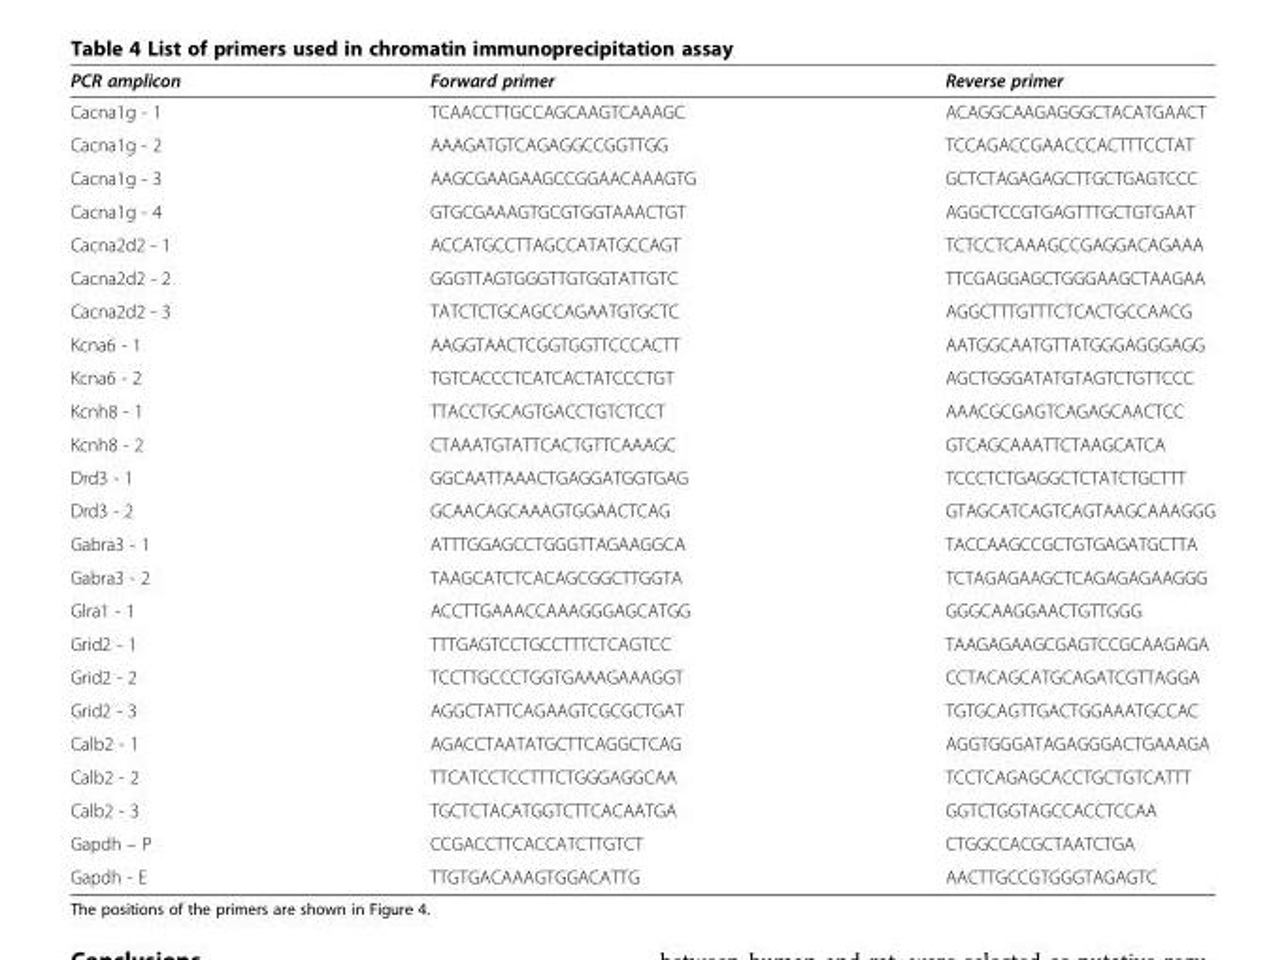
<table><thead><tr><td>PCR amplicon</td><td>Forward primer</td><td>Reverse primer</td></tr></thead><tbody><tr><td>Cacna1g - 1</td><td>TCAACCTTGCCAGCAAGTCAAAGC</td><td>ACAGGCAAGAGGGCTACATGAACT</td></tr><tr><td>Cacna1g - 2</td><td>AAAGATGTCAGAGGCCGGTTGG</td><td>TCCAGACCGAACCCACTTTCCTAT</td></tr><tr><td>Cacna1g - 3</td><td>AAGCGAAGAAGCCGGAACAAAGTG</td><td>GCTCTAGAGAGCTTGCTGAGTCCC</td></tr><tr><td>Cacna1g - 4</td><td>GTGCGAAAGTGCGTGGTAAACTGT</td><td>AGGCTCCGTGAGTTTGCTGTGAAT</td></tr><tr><td>Cacna2d2 - 1</td><td>ACCATGCCTTAGCCATATGCCAGT</td><td>TCTCCTCAAAGCCGAGGACAGAAA</td></tr><tr><td>Cacna2d2 - 2</td><td>GGGTTAGTGGGTTGTGGTATTGTC</td><td>TTCGAGGAGCTGGGAAGCTAAGAA</td></tr><tr><td>Cacna2d2 - 3</td><td>TATCTCTGCAGCCAGAATGTGCTC</td><td>AGGCTTTGTTTCTCACTGCCAACG</td></tr><tr><td>Kcna6 - 1</td><td>AAGGTAACTCGGTGGTTCCCACTT</td><td>AATGGCAATGTTATGGGAGGGAGG</td></tr><tr><td>Kcna6 - 2</td><td>TGTCACCCTCATCACTATCCCTGT</td><td>AGCTGGGATATGTAGTCTGTTCCC</td></tr><tr><td>Kcnh8 - 1</td><td>TTACCTGCAGTGACCTGTCTCCT</td><td>AAACGCGAGTCAGAGCAACTCC</td></tr><tr><td>Kcnh8 - 2</td><td>CTAAATGTATTCACTGTTCAAAGC</td><td>GTCAGCAAATTCTAAGCATCA</td></tr><tr><td>Drd3 - 1</td><td>GGCAATTAAACTGAGGATGGTGAG</td><td>TCCCTCTGAGGCTCTATCTGCTTT</td></tr><tr><td>Drd3 - 2</td><td>GCAACAGCAAAGTGGAACTCAG</td><td>GTAGCATCAGTCAGTAAGCAAAGGG</td></tr><tr><td>Gabra3 - 1</td><td>ATTTGGAGCCTGGGTTAGAAGGCA</td><td>TACCAAGCCGCTGTGAGATGCTTA</td></tr><tr><td>Gabra3 - 2</td><td>TAAGCATCTCACAGCGGCTTGGTA</td><td>TCTAGAGAAGCTCAGAGAGAAGGG</td></tr><tr><td>Glra1 - 1</td><td>ACCTTGAAACCAAAGGGAGCATGG</td><td>GGGCAAGGAACTGTTGGG</td></tr><tr><td>Grid2 - 1</td><td>TTTGAGTCCTGCCTTTCTCAGTCC</td><td>TAAGAGAAGCGAGTCCGCAAGAGA</td></tr><tr><td>Grid2 - 2</td><td>TCCTTGCCCTGGTGAAAGAAAGGT</td><td>CCTACAGCATGCAGATCGTTAGGA</td></tr><tr><td>Grid2 - 3</td><td>AGGCTATTCAGAAGTCGCGCTGAT</td><td>TGTGCAGTTGACTGGAAATGCCAC</td></tr><tr><td>Calb2 - 1</td><td>AGACCTAATATGCTTCAGGCTCAG</td><td>AGGTGGGATAGAGGGACTGAAAGA</td></tr><tr><td>Calb2 - 2</td><td>TTCATCCTCCTTTCTGGGAGGCAA</td><td>TCCTCAGAGCACCTGCTGTCATTT</td></tr><tr><td>Calb2 - 3</td><td>TGCTCTACATGGTCTTCACAATGA</td><td>GGTCTGGTAGCCACCTCCAA</td></tr><tr><td>Gapdh – P</td><td>CCGACCTTCACCATCTTGTCT</td><td>CTGGCCACGCTAATCTGA</td></tr><tr><td>Gapdh - E</td><td>TTGTGACAAAGTGGACATTG</td><td>AACTTGCCGTGGGTAGAGTC</td></tr></tbody></table>